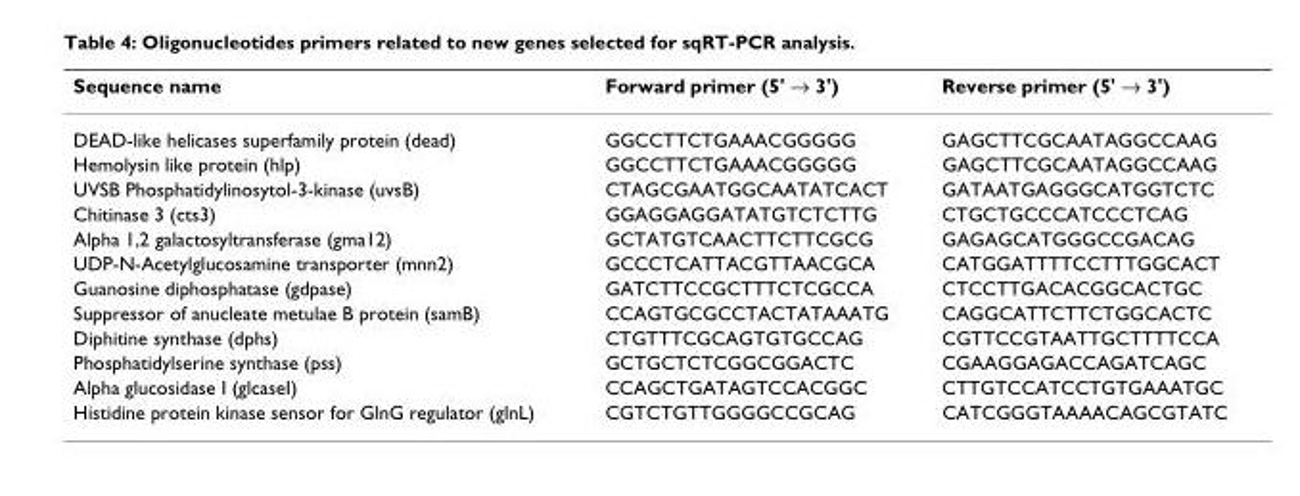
<table><thead><tr><td>Sequence name</td><td>Forward primer (5&#x27; → 3&#x27;)</td><td>Reverse primer (5&#x27; → 3&#x27;)</td></tr></thead><tbody><tr><td>DEAD-like helicases superfamily protein (dead)</td><td>GGCCTTCTGAAACGGGGG</td><td>GAGCTTCGCAATAGGCCAAG</td></tr><tr><td>Hemolysin like protein (hlp)</td><td>GGCCTTCTGAAACGGGGG</td><td>GAGCTTCGCAATAGGCCAAG</td></tr><tr><td>UVSB Phosphatidylinosytol-3-kinase (uvsB)</td><td>CTAGCGAATGGCAATATCACT</td><td>GATAATGAGGGCATGGTCTC</td></tr><tr><td>Chitinase 3 (cts3)</td><td>GGAGGAGGATATGTCTCTTG</td><td>CTGCTGCCCATCCCTCAG</td></tr><tr><td>Alpha 1,2 galactosyltransferase (gma12)</td><td>GCTATGTCAACTTCTTCGCG</td><td>GAGAGCATGGGCCGACAG</td></tr><tr><td>UDP-N-Acetylglucosamine transporter (mnn2)</td><td>GCCCTCATTACGTTAACGCA</td><td>CATGGATTTTCCTTTGGCACT</td></tr><tr><td>Guanosine diphosphatase (gdpase)</td><td>GATCTTCCGCTTTCTCGCCA</td><td>CTCCTTGACACGGCACTGC</td></tr><tr><td>Suppressor of anucleate metulae B protein (samB)</td><td>CCAGTGCGCCTACTATAAATG</td><td>CAGGCATTCTTCTGGCACTC</td></tr><tr><td>Diphitine synthase (dphs)</td><td>CTGTTTCGCAGTGTGCCAG</td><td>CGTTCCGTAATTGCTTTTCCA</td></tr><tr><td>Phosphatidylserine synthase (pss)</td><td>GCTGCTCTCGGCGGACTC</td><td>CGAAGGAGACCAGATCAGC</td></tr><tr><td>Alpha glucosidase I (glcaseI)</td><td>CCAGCTGATAGTCCACGGC</td><td>CTTGTCCATCCTGTGAAATGC</td></tr><tr><td>Histidine protein kinase sensor for GlnG regulator (glnL)</td><td>CGTCTGTTGGGGCCGCAG</td><td>CATCGGGTAAAACAGCGTATC</td></tr></tbody></table>